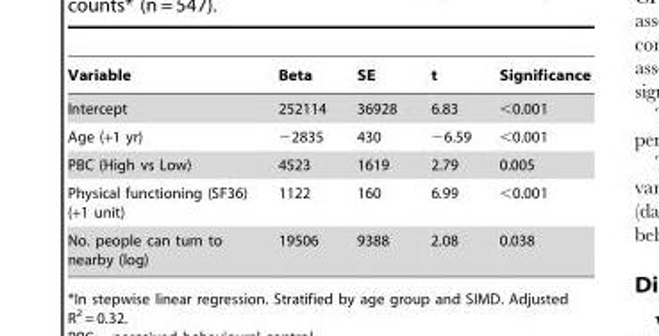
<table><thead><tr><td>Variable</td><td>Beta</td><td>SE</td><td>t</td><td>Significance</td></tr></thead><tbody><tr><td>Intercept</td><td>252114</td><td>36928</td><td>6.83</td><td>&lt;0.001</td></tr><tr><td>Age (+1 yr)</td><td>−2835</td><td>430</td><td>−6.59</td><td>&lt;0.001</td></tr><tr><td>PBC (High vs Low)</td><td>4523</td><td>1619</td><td>2.79</td><td>0.005</td></tr><tr><td>Physical functioning (SF36) (+1 unit)</td><td>1122</td><td>160</td><td>6.99</td><td>&lt;0.001</td></tr><tr><td>No. people can turn to nearby (log)</td><td>19506</td><td>9388</td><td>2.08</td><td>0.038</td></tr></tbody></table>